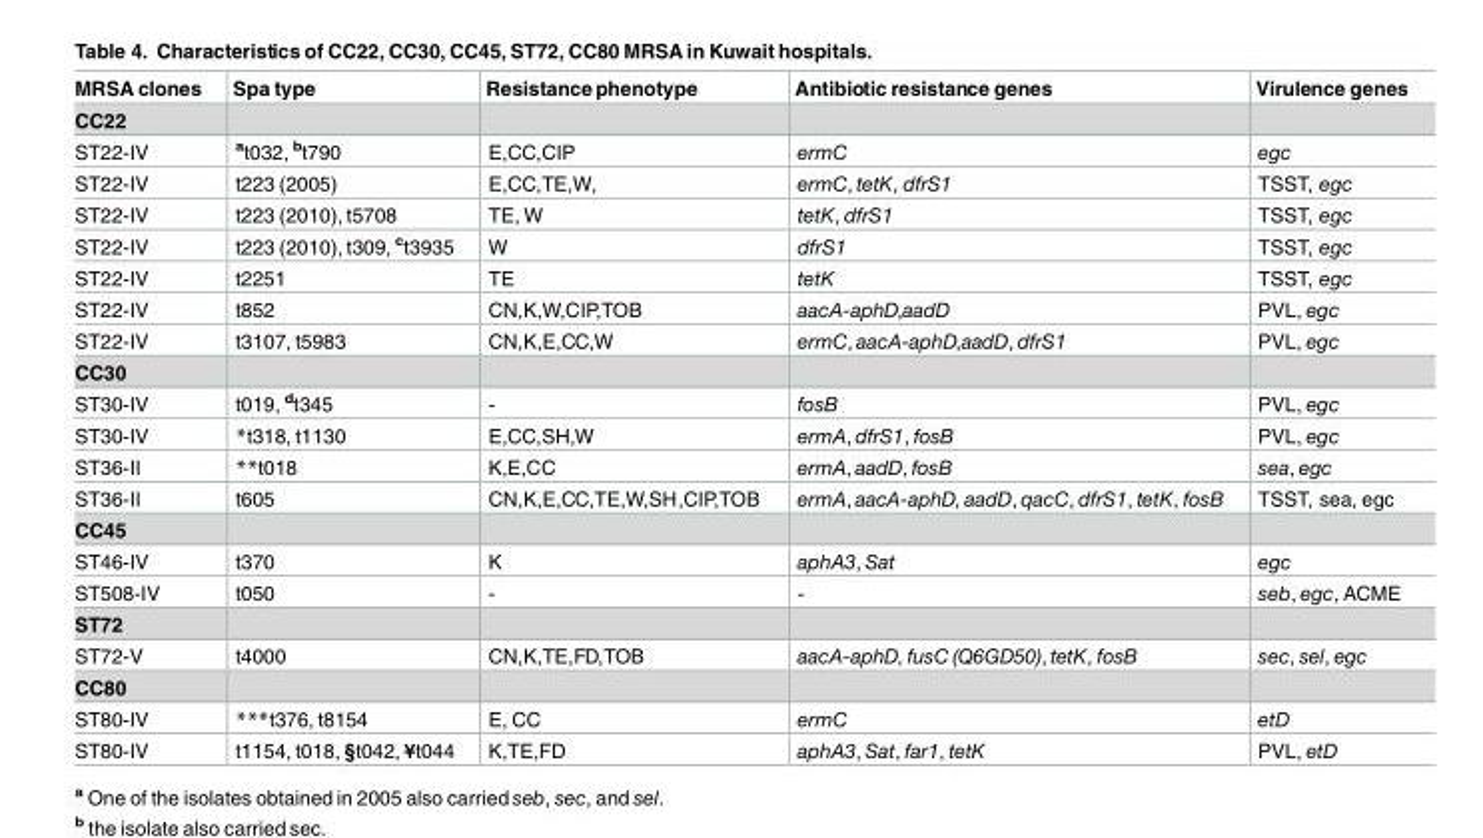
<table><thead><tr><td>MRSA clones</td><td>Spa type</td><td>Resistance phenotype</td><td>Antibiotic resistance genes</td><td>Virulence genes</td></tr></thead><tbody><tr><td colspan="5">CC22</td></tr><tr><td>ST22-IV</td><td><sup>a</sup>t032, <sup>b</sup>t790</td><td>E,CC,CIP</td><td>ermC</td><td>egc</td></tr><tr><td>ST22-IV</td><td>t223 (2005)</td><td>E,CC,TE,W,</td><td>ermC, tetK, dfrS1</td><td>TSST, egc</td></tr><tr><td>ST22-IV</td><td>t223 (2010), t5708</td><td>TE, W</td><td>tetK, dfrS1</td><td>TSST, egc</td></tr><tr><td>ST22-IV</td><td>t223 (2010), t309, <sup>c</sup>t3935</td><td>W</td><td>dfrS1</td><td>TSST, egc</td></tr><tr><td>ST22-IV</td><td>t2251</td><td>TE</td><td>tetK</td><td>TSST, egc</td></tr><tr><td>ST22-IV</td><td>t852</td><td>CN,K,W,CIP,TOB</td><td>aacA-aphD,aadD</td><td>PVL, egc</td></tr><tr><td>ST22-IV</td><td>t3107, t5983</td><td>CN,K,E,CC,W</td><td>ermC, aacA-aphD,aadD, dfrS1</td><td>PVL, egc</td></tr><tr><td colspan="5">CC30</td></tr><tr><td>ST30-IV</td><td>t019, <sup>d</sup>t345</td><td>-</td><td>fosB</td><td>PVL, egc</td></tr><tr><td>ST30-IV</td><td>*t318, t1130</td><td>E,CC,SH,W</td><td>ermA, dfrS1, fosB</td><td>PVL, egc</td></tr><tr><td>ST36-II</td><td>**t018</td><td>K,E,CC</td><td>ermA, aadD, fosB</td><td>sea, egc</td></tr><tr><td>ST36-II</td><td>t605</td><td>CN,K,E,CC,TE,W,SH,CIP,TOB</td><td>ermA, aacA-aphD, aadD, qacC, dfrS1, tetK, fosB</td><td>TSST, sea, egc</td></tr><tr><td colspan="5">CC45</td></tr><tr><td>ST46-IV</td><td>t370</td><td>K</td><td>aphA3, Sat</td><td>egc</td></tr><tr><td>ST508-IV</td><td>t050</td><td>-</td><td>-</td><td>seb, egc, ACME</td></tr><tr><td colspan="5">ST72</td></tr><tr><td>ST72-V</td><td>t4000</td><td>CN,K,TE,FD,TOB</td><td>aacA-aphD, fusC (Q6GD50), tetK, fosB</td><td>sec, sel, egc</td></tr><tr><td colspan="5">CC80</td></tr><tr><td>ST80-IV</td><td>***t376, t8154</td><td>E, CC</td><td>ermC</td><td>etD</td></tr><tr><td>ST80-IV</td><td>t1154, t018, §t042, ¥t044</td><td>K,TE,FD</td><td>aphA3, Sat, far1, tetK</td><td>PVL, etD</td></tr></tbody></table>